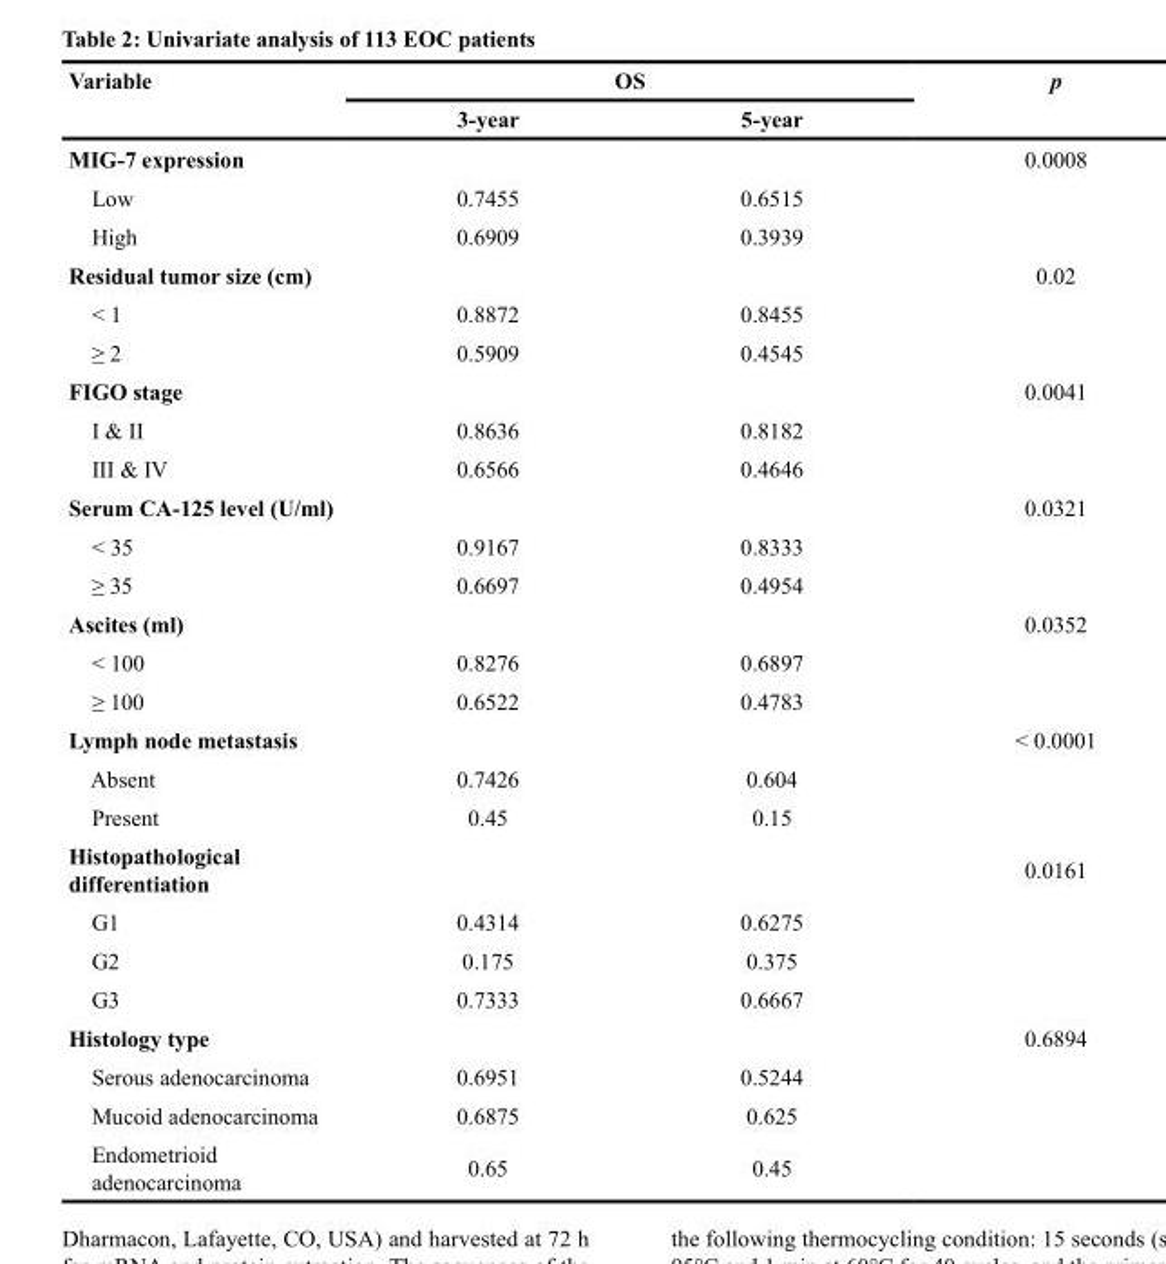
<table><thead><tr><td rowspan="2">Variable</td><td colspan="2">OS</td><td rowspan="2">p</td></tr><tr><td>3-year</td><td>5-year</td></tr></thead><tbody><tr><td>MIG-7 expression</td><td></td><td></td><td>0.0008</td></tr><tr><td>Low</td><td>0.7455</td><td>0.6515</td><td></td></tr><tr><td>High</td><td>0.6909</td><td>0.3939</td><td></td></tr><tr><td>Residual tumor size (cm)</td><td></td><td></td><td>0.02</td></tr><tr><td>&lt; 1</td><td>0.8872</td><td>0.8455</td><td></td></tr><tr><td>≥ 2</td><td>0.5909</td><td>0.4545</td><td></td></tr><tr><td>FIGO stage</td><td></td><td></td><td>0.0041</td></tr><tr><td>I &amp; II</td><td>0.8636</td><td>0.8182</td><td></td></tr><tr><td>III &amp; IV</td><td>0.6566</td><td>0.4646</td><td></td></tr><tr><td>Serum CA-125 level (U/ml)</td><td></td><td></td><td>0.0321</td></tr><tr><td>&lt; 35</td><td>0.9167</td><td>0.8333</td><td></td></tr><tr><td>≥ 35</td><td>0.6697</td><td>0.4954</td><td></td></tr><tr><td>Ascites (ml)</td><td></td><td></td><td>0.0352</td></tr><tr><td>&lt; 100</td><td>0.8276</td><td>0.6897</td><td></td></tr><tr><td>≥ 100</td><td>0.6522</td><td>0.4783</td><td></td></tr><tr><td>Lymph node metastasis</td><td></td><td></td><td>&lt; 0.0001</td></tr><tr><td>Absent</td><td>0.7426</td><td>0.604</td><td></td></tr><tr><td>Present</td><td>0.45</td><td>0.15</td><td></td></tr><tr><td>Histopathological differentiation</td><td></td><td></td><td>0.0161</td></tr><tr><td>G1</td><td>0.4314</td><td>0.6275</td><td></td></tr><tr><td>G2</td><td>0.175</td><td>0.375</td><td></td></tr><tr><td>G3</td><td>0.7333</td><td>0.6667</td><td></td></tr><tr><td>Histology type</td><td></td><td></td><td>0.6894</td></tr><tr><td>Serous adenocarcinoma</td><td>0.6951</td><td>0.5244</td><td></td></tr><tr><td>Mucoid adenocarcinoma</td><td>0.6875</td><td>0.625</td><td></td></tr><tr><td>Endometrioid adenocarcinoma</td><td>0.65</td><td>0.45</td><td></td></tr></tbody></table>